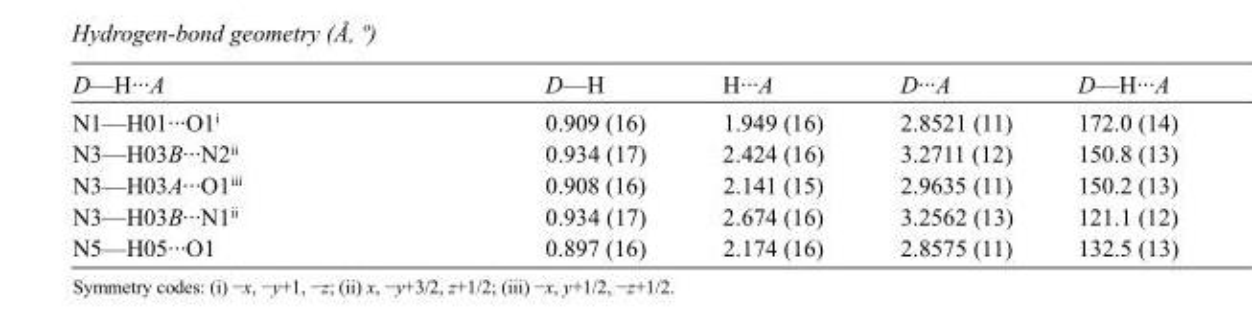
<table><tbody><tr><td>D—H···A</td><td>D—H</td><td>H···A</td><td>D···A</td><td>D—H···A</td></tr><tr><td>N1—H01···O1<sup>i</sup></td><td>0.909 (16)</td><td>1.949 (16)</td><td>2.8521 (11)</td><td>172.0 (14)</td></tr><tr><td>N3—H03B···N2<sup>ii</sup></td><td>0.934 (17)</td><td>2.424 (16)</td><td>3.2711 (12)</td><td>150.8 (13)</td></tr><tr><td>N3—H03A···O1<sup>iii</sup></td><td>0.908 (16)</td><td>2.141 (15)</td><td>2.9635 (11)</td><td>150.2 (13)</td></tr><tr><td>N3—H03B···N1<sup>ii</sup></td><td>0.934 (17)</td><td>2.674 (16)</td><td>3.2562 (13)</td><td>121.1 (12)</td></tr><tr><td>N5—H05···O1</td><td>0.897 (16)</td><td>2.174 (16)</td><td>2.8575 (11)</td><td>132.5 (13)</td></tr></tbody></table>